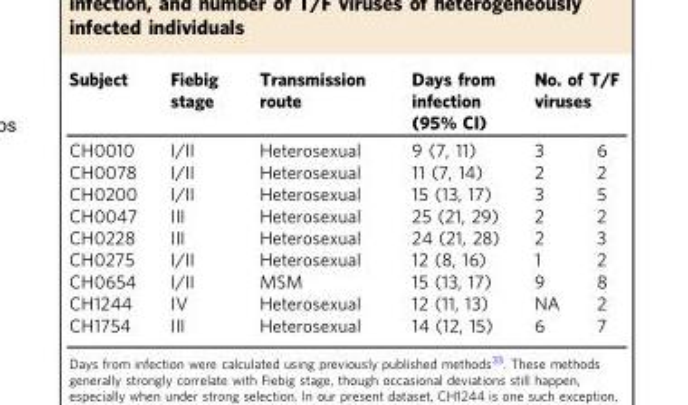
<table><thead><tr><td rowspan="2">Subject CH0010</td><td rowspan="2">Fiebig stage I/II</td><td rowspan="2">Transmission route Heterosexual</td><td rowspan="2">Days from infection (95% CI) 9 (7, 11)</td><td colspan="2">No. of T/F viruses</td></tr><tr><td>3</td><td>6</td></tr></thead><tbody><tr><td>CH0078</td><td>I/II</td><td>Heterosexual</td><td>11 (7, 14)</td><td>2</td><td>2</td></tr><tr><td>CH0200</td><td>I/II</td><td>Heterosexual</td><td>15 (13, 17)</td><td>3</td><td>5</td></tr><tr><td>CH0047</td><td>III</td><td>Heterosexual</td><td>25 (21, 29)</td><td>2</td><td>2</td></tr><tr><td>CH0228</td><td>III</td><td>Heterosexual</td><td>24 (21, 28)</td><td>2</td><td>3</td></tr><tr><td>CH0275</td><td>I/II</td><td>Heterosexual</td><td>12 (8, 16)</td><td>1</td><td>2</td></tr><tr><td>CH0654</td><td>I/II</td><td>MSM</td><td>15 (13, 17)</td><td>9</td><td>8</td></tr><tr><td>CH1244</td><td>IV</td><td>Heterosexual</td><td>12 (11, 13)</td><td>NA</td><td>2</td></tr><tr><td>CH1754</td><td>III</td><td>Heterosexual</td><td>14 (12, 15)</td><td>6</td><td>7</td></tr></tbody></table>